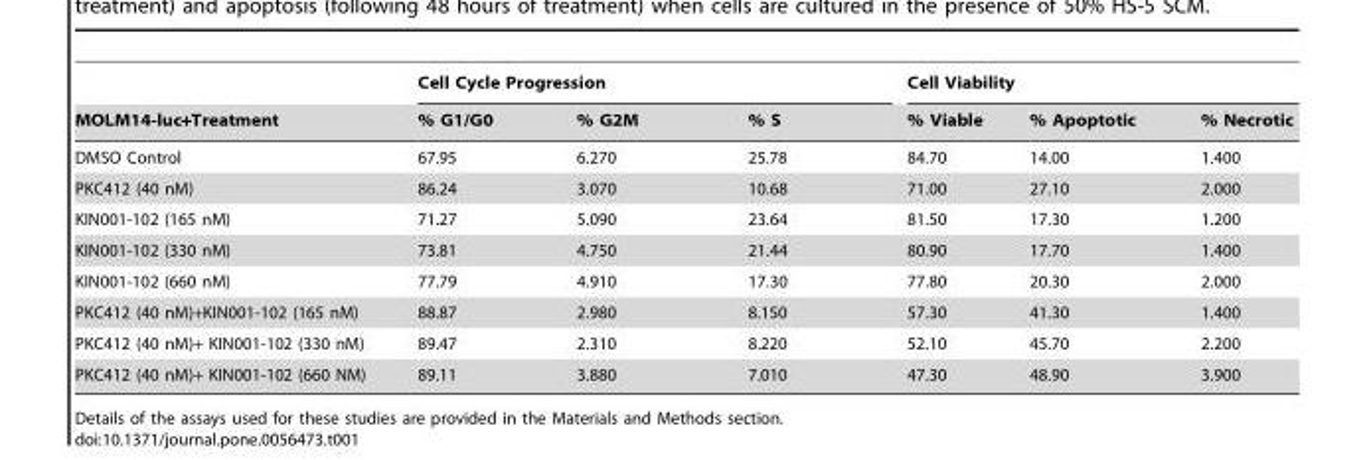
<table><thead><tr><td rowspan="2">MOLM14-luc+Treatment</td><td colspan="3">Cell Cycle Progression</td><td colspan="3">Cell Viability</td></tr><tr><td>% G1/G0</td><td>% G2M</td><td>% S</td><td>% Viable</td><td>% Apoptotic</td><td>% Necrotic</td></tr></thead><tbody><tr><td>DMSO Control</td><td>67.95</td><td>6.270</td><td>25.78</td><td>84.70</td><td>14.00</td><td>1.400</td></tr><tr><td>PKC412 (40 nM)</td><td>86.24</td><td>3.070</td><td>10.68</td><td>71.00</td><td>27.10</td><td>2.000</td></tr><tr><td>KIN001-102 (165 nM)</td><td>71.27</td><td>5.090</td><td>23.64</td><td>81.50</td><td>17.30</td><td>1.200</td></tr><tr><td>KIN001-102 (330 nM)</td><td>73.81</td><td>4.750</td><td>21.44</td><td>80.90</td><td>17.70</td><td>1.400</td></tr><tr><td>KIN001-102 (660 nM)</td><td>77.79</td><td>4.910</td><td>17.30</td><td>77.80</td><td>20.30</td><td>2.000</td></tr><tr><td>PKC412 (40 nM)+KIN001-102 (165 nM)</td><td>88.87</td><td>2.980</td><td>8.150</td><td>57.30</td><td>41.30</td><td>1.400</td></tr><tr><td>PKC412 (40 nM)+ KIN001-102 (330 nM)</td><td>89.47</td><td>2.310</td><td>8.220</td><td>52.10</td><td>45.70</td><td>2.200</td></tr><tr><td>PKC412 (40 nM)+ KIN001-102 (660 NM)</td><td>89.11</td><td>3.880</td><td>7.010</td><td>47.30</td><td>48.90</td><td>3.900</td></tr></tbody></table>